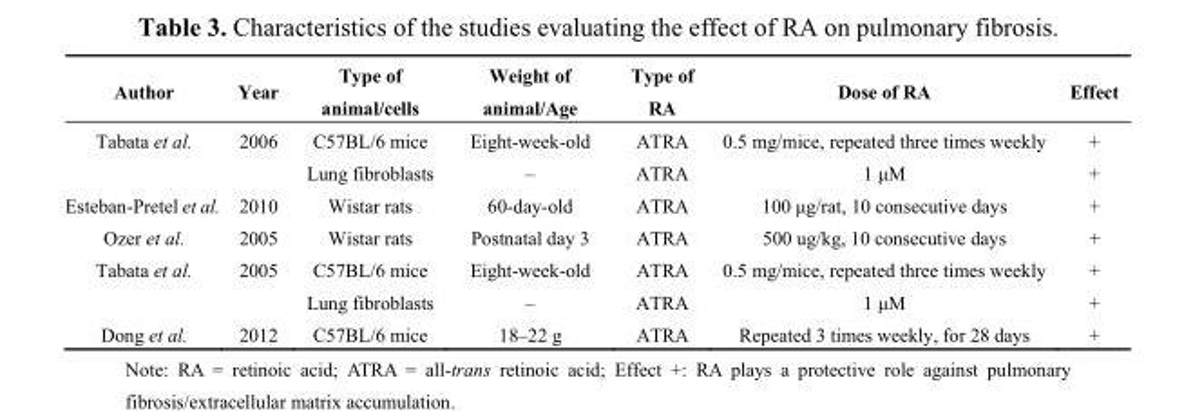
<table><thead><tr><td>Author</td><td>Year</td><td>Type of animal/cells</td><td>Weight of animal/Age</td><td>Type of RA</td><td>Dose of RA</td><td>Effect</td></tr></thead><tbody><tr><td rowspan="2">Tabata et al.</td><td>2006</td><td>C57BL/6 mice</td><td>Eight-week-old</td><td>ATRA</td><td>0.5 mg/mice, repeated three times weekly</td><td>+</td></tr><tr><td></td><td>Lung fibroblasts</td><td>–</td><td>ATRA</td><td>1 μM</td><td>+</td></tr><tr><td>Esteban-Pretel et al.</td><td>2010</td><td>Wistar rats</td><td>60-day-old</td><td>ATRA</td><td>100 μg/rat, 10 consecutive days</td><td>+</td></tr><tr><td>Ozer et al.</td><td>2005</td><td>Wistar rats</td><td>Postnatal day 3</td><td>ATRA</td><td>500 ug/kg, 10 consecutive days</td><td>+</td></tr><tr><td rowspan="2">Tabata et al.</td><td>2005</td><td>C57BL/6 mice</td><td>Eight-week-old</td><td>ATRA</td><td>0.5 mg/mice, repeated three times weekly</td><td>+</td></tr><tr><td></td><td>Lung fibroblasts</td><td>–</td><td>ATRA</td><td>1 μM</td><td>+</td></tr><tr><td>Dong et al.</td><td>2012</td><td>C57BL/6 mice</td><td>18–22 g</td><td>ATRA</td><td>Repeated 3 times weekly, for 28 days</td><td>+</td></tr></tbody></table>